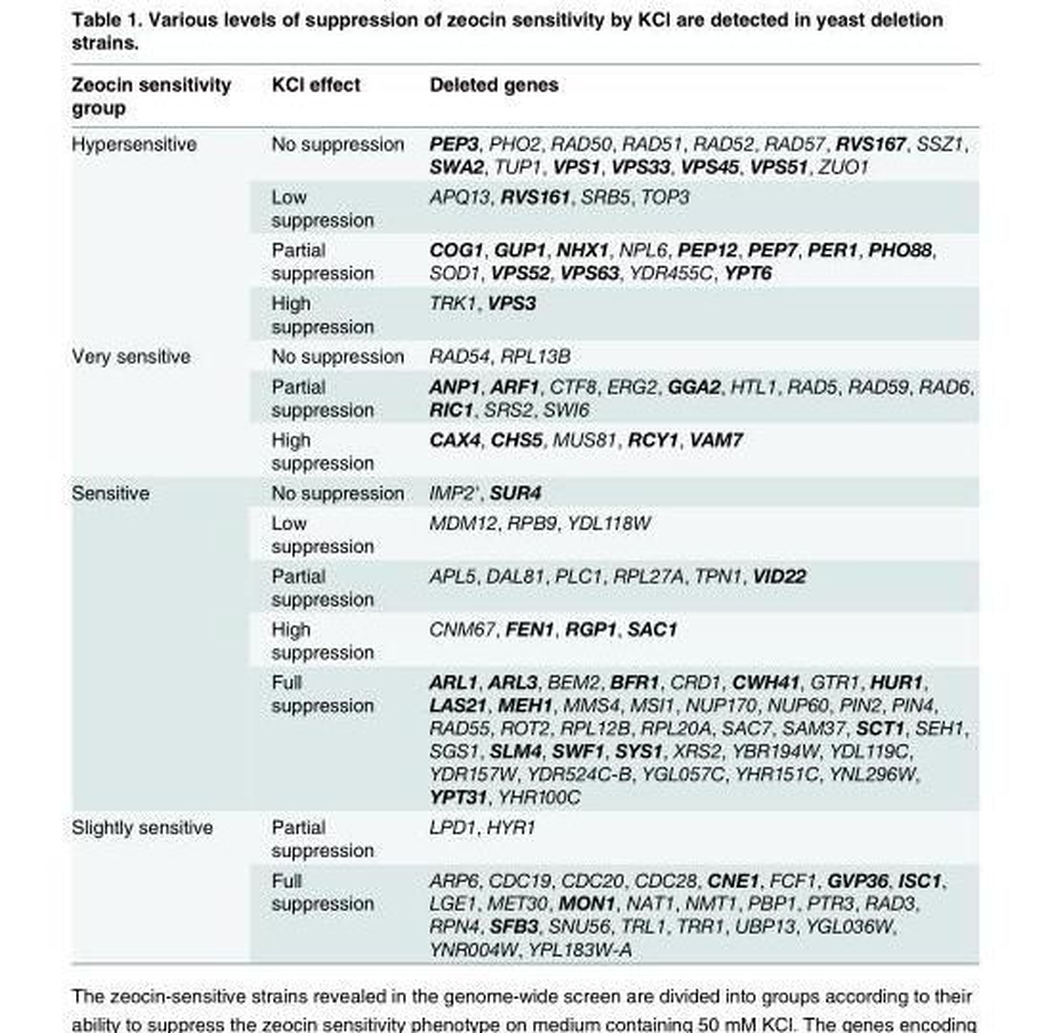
<table><thead><tr><td>Zeocin sensitivity group</td><td>KCl effect</td><td>Deleted genes</td></tr></thead><tbody><tr><td rowspan="4">Hypersensitive</td><td>No suppression</td><td>PEP3, PHO2, RAD50, RAD51, RAD52, RAD57, RVS167, SSZ1, SWA2, TUP1, VPS1, VPS33, VPS45, VPS51, ZUO1</td></tr><tr><td>Low suppression</td><td>APQ13, RVS161, SRB5, TOP3</td></tr><tr><td>Partial suppression</td><td>COG1, GUP1, NHX1, NPL6, PEP12, PEP7, PER1, PHO88, SOD1, VPS52, VPS63, YDR455C, YPT6</td></tr><tr><td>High suppression</td><td>TRK1, VPS3</td></tr><tr><td rowspan="3">Very sensitive</td><td>No suppression</td><td>RAD54, RPL13B</td></tr><tr><td>Partial suppression</td><td>ANP1, ARF1, CTF8, ERG2, GGA2, HTL1, RAD5, RAD59, RAD6, RIC1, SRS2, SWI6</td></tr><tr><td>High suppression</td><td>CAX4, CHS5, MUS81, RCY1, VAM7</td></tr><tr><td rowspan="5">Sensitive</td><td>No suppression</td><td>IMP2&#x27;, SUR4</td></tr><tr><td>Low suppression</td><td>MDM12, RPB9, YDL118W</td></tr><tr><td>Partial suppression</td><td>APL5, DAL81, PLC1, RPL27A, TPN1, VID22</td></tr><tr><td>High suppression</td><td>CNM67, FEN1, RGP1, SAC1</td></tr><tr><td>Full suppression</td><td>ARL1, ARL3, BEM2, BFR1, CRD1, CWH41, GTR1, HUR1, LAS21, MEH1, MMS4, MSI1, NUP170, NUP60, PIN2, PIN4, RAD55, ROT2, RPL12B, RPL20A, SAC7, SAM37, SCT1, SEH1, SGS1, SLM4, SWF1, SYS1, XRS2, YBR194W, YDL119C, YDR157W, YDR524C-B, YGL057C, YHR151C, YNL296W, YPT31, YHR100C</td></tr><tr><td rowspan="2">Slightly sensitive</td><td>Partial suppression</td><td>LPD1, HYR1</td></tr><tr><td>Full suppression</td><td>ARP6, CDC19, CDC20, CDC28, CNE1, FCF1, GVP36, ISC1, LGE1, MET30, MON1, NAT1, NMT1, PBP1, PTR3, RAD3, RPN4, SFB3, SNU56, TRL1, TRR1, UBP13, YGL036W, YNR004W, YPL183W-A</td></tr></tbody></table>